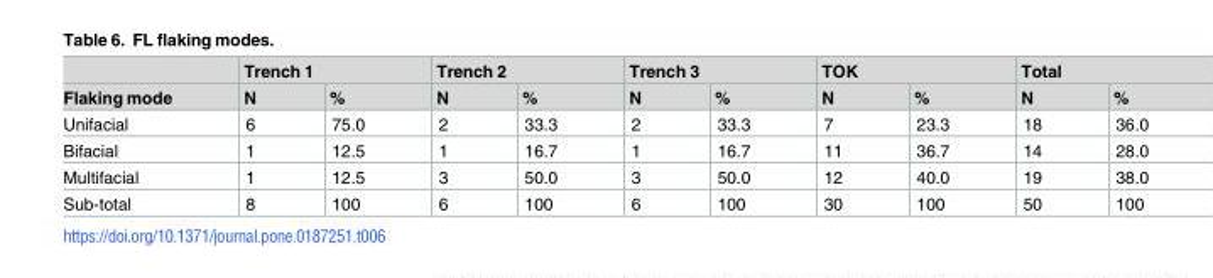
<table><thead><tr><td rowspan="2">Flaking mode</td><td colspan="2">Trench 1</td><td colspan="2">Trench 2</td><td colspan="2">Trench 3</td><td colspan="2">TOK</td><td colspan="2">Total</td></tr><tr><td>N</td><td>%</td><td>N</td><td>%</td><td>N</td><td>%</td><td>N</td><td>%</td><td>N</td><td>%</td></tr></thead><tbody><tr><td>Unifacial</td><td>6</td><td>75.0</td><td>2</td><td>33.3</td><td>2</td><td>33.3</td><td>7</td><td>23.3</td><td>18</td><td>36.0</td></tr><tr><td>Bifacial</td><td>1</td><td>12.5</td><td>1</td><td>16.7</td><td>1</td><td>16.7</td><td>11</td><td>36.7</td><td>14</td><td>28.0</td></tr><tr><td>Multifacial</td><td>1</td><td>12.5</td><td>3</td><td>50.0</td><td>3</td><td>50.0</td><td>12</td><td>40.0</td><td>19</td><td>38.0</td></tr><tr><td>Sub-total</td><td>8</td><td>100</td><td>6</td><td>100</td><td>6</td><td>100</td><td>30</td><td>100</td><td>50</td><td>100</td></tr></tbody></table>